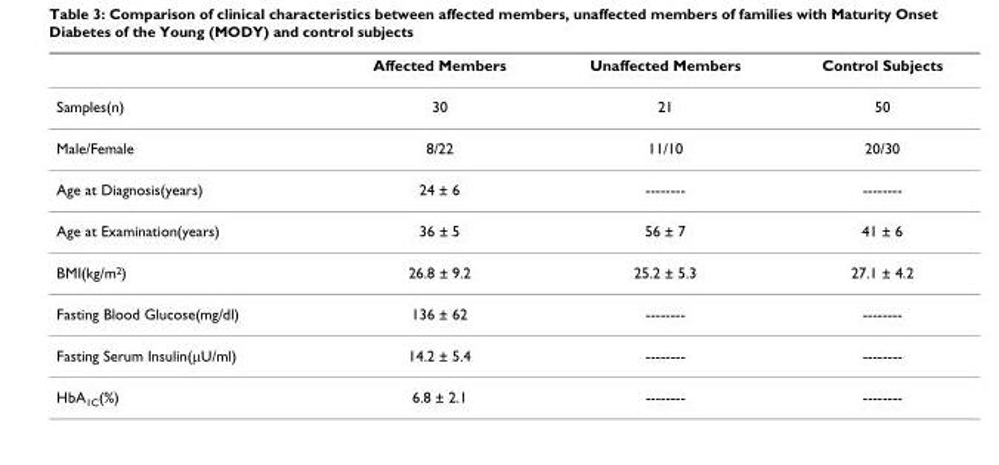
<table><thead><tr><td></td><td>Affected Members</td><td>Unaffected Members</td><td>Control Subjects</td></tr></thead><tbody><tr><td>Samples(n)</td><td>30</td><td>21</td><td>50</td></tr><tr><td>Male/Female</td><td>8/22</td><td>11/10</td><td>20/30</td></tr><tr><td>Age at Diagnosis(years)</td><td>24 ± 6</td><td>--------</td><td>--------</td></tr><tr><td>Age at Examination(years)</td><td>36 ± 5</td><td>56 ± 7</td><td>41 ± 6</td></tr><tr><td>BMI(kg/m<sup>2</sup>)</td><td>26.8 ± 9.2</td><td>25.2 ± 5.3</td><td>27.1 ± 4.2</td></tr><tr><td>Fasting Blood Glucose(mg/dl)</td><td>136 ± 62</td><td>--------</td><td>--------</td></tr><tr><td>Fasting Serum Insulin(μU/ml)</td><td>14.2 ± 5.4</td><td>--------</td><td>--------</td></tr><tr><td>HbA<sub>1C</sub>(%)</td><td>6.8 ± 2.1</td><td>--------</td><td>--------</td></tr></tbody></table>